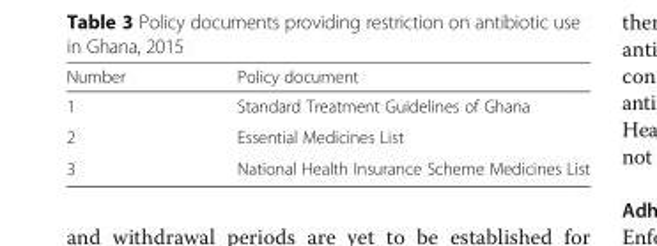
<table><thead><tr><td>Number</td><td>Policy document</td></tr></thead><tbody><tr><td>1</td><td>Standard Treatment Guidelines of Ghana</td></tr><tr><td>2</td><td>Essential Medicines List</td></tr><tr><td>3</td><td>National Health Insurance Scheme Medicines List</td></tr></tbody></table>